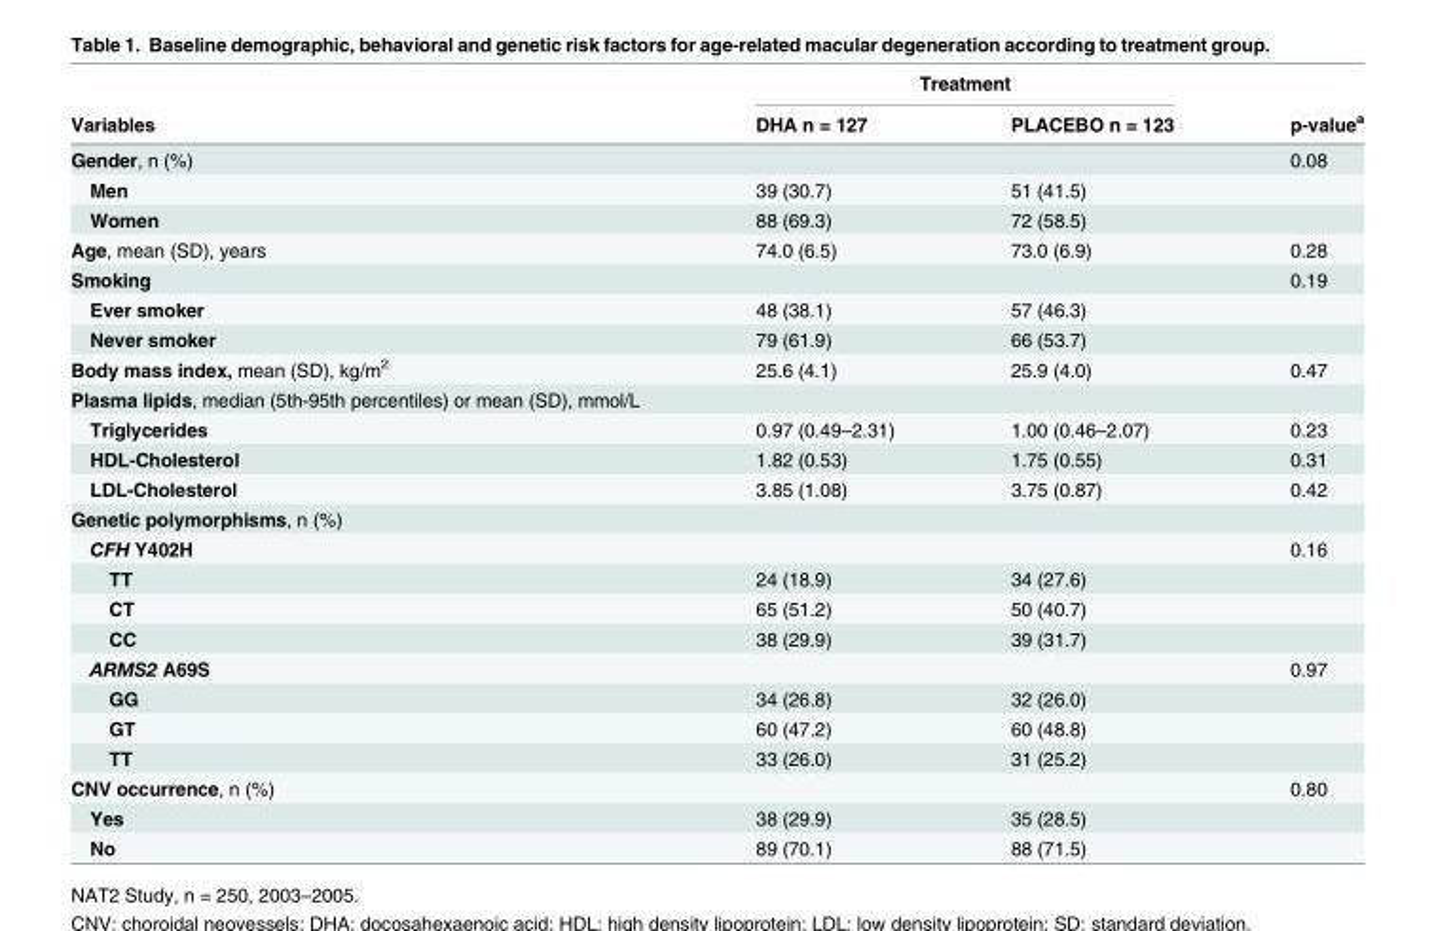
<table><thead><tr><td rowspan="2">Variables</td><td colspan="2">Treatment</td><td rowspan="2">p-value<sup>a</sup></td></tr><tr><td>DHA n = 127</td><td>PLACEBO n = 123</td></tr></thead><tbody><tr><td>Gender, n (%)</td><td></td><td></td><td>0.08</td></tr><tr><td>Men</td><td>39 (30.7)</td><td>51 (41.5)</td><td></td></tr><tr><td>Women</td><td>88 (69.3)</td><td>72 (58.5)</td><td></td></tr><tr><td>Age, mean (SD), years</td><td>74.0 (6.5)</td><td>73.0 (6.9)</td><td>0.28</td></tr><tr><td>Smoking</td><td></td><td></td><td>0.19</td></tr><tr><td>Ever smoker</td><td>48 (38.1)</td><td>57 (46.3)</td><td></td></tr><tr><td>Never smoker</td><td>79 (61.9)</td><td>66 (53.7)</td><td></td></tr><tr><td>Body mass index, mean (SD), kg/m<sup>2</sup></td><td>25.6 (4.1)</td><td>25.9 (4.0)</td><td>0.47</td></tr><tr><td colspan="4">Plasma lipids, median (5th-95th percentiles) or mean (SD), mmol/L</td></tr><tr><td>Triglycerides</td><td>0.97 (0.49–2.31)</td><td>1.00 (0.46–2.07)</td><td>0.23</td></tr><tr><td>HDL-Cholesterol</td><td>1.82 (0.53)</td><td>1.75 (0.55)</td><td>0.31</td></tr><tr><td>LDL-Cholesterol</td><td>3.85 (1.08)</td><td>3.75 (0.87)</td><td>0.42</td></tr><tr><td colspan="4">Genetic polymorphisms, n (%)</td></tr><tr><td>CFH Y402H</td><td></td><td></td><td>0.16</td></tr><tr><td>TT</td><td>24 (18.9)</td><td>34 (27.6)</td><td></td></tr><tr><td>CT</td><td>65 (51.2)</td><td>50 (40.7)</td><td></td></tr><tr><td>CC</td><td>38 (29.9)</td><td>39 (31.7)</td><td></td></tr><tr><td>ARMS2 A69S</td><td></td><td></td><td>0.97</td></tr><tr><td>GG</td><td>34 (26.8)</td><td>32 (26.0)</td><td></td></tr><tr><td>GT</td><td>60 (47.2)</td><td>60 (48.8)</td><td></td></tr><tr><td>TT</td><td>33 (26.0)</td><td>31 (25.2)</td><td></td></tr><tr><td>CNV occurrence, n (%)</td><td></td><td></td><td>0.80</td></tr><tr><td>Yes</td><td>38 (29.9)</td><td>35 (28.5)</td><td></td></tr><tr><td>No</td><td>89 (70.1)</td><td>88 (71.5)</td><td></td></tr></tbody></table>